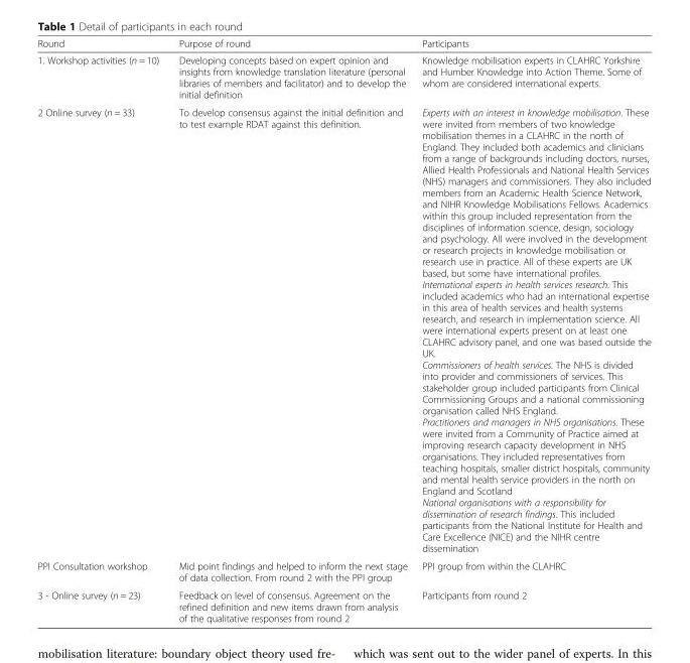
<table><thead><tr><td>Round</td><td>Purpose of round</td><td>Participants</td></tr></thead><tbody><tr><td>1. Workshop activities (n = 10)</td><td>Developing concepts based on expert opinion and insights from knowledge translation literature (personal libraries of members and facilitator) and to develop the initial definition</td><td>Knowledge mobilisation experts in CLAHRC Yorkshire and Humber Knowledge into Action Theme. Some of whom are considered international experts.</td></tr><tr><td>2 Online survey (n = 33)</td><td>To develop consensus against the initial definition and to test example RDAT against this definition.</td><td>Experts with an interest in knowledge mobilisation. These were invited from members of two knowledge mobilisation themes in a CLAHRC in the north of England. They included both academics and clinicians from a range of backgrounds including doctors, nurses, Allied Health Professionals and National Health Services (NHS) managers and commissioners. They also included members from an Academic Health Science Network, and NIHR Knowledge Mobilisations Fellows. Academics within this group included representation from the disciplines of information science, design, sociology and psychology. All were involved in the development or research projects in knowledge mobilisation or research use in practice. All of these experts are UK based, but some have international profiles. International experts in health services research. This included academics who had an international expertise in this area of health services and health systems research, and research in implementation science. All were international experts present on at least one CLAHRC advisory panel, and one was based outside the UK. Commissioners of health services. The NHS is divided into provider and commissioners of services. This stakeholder group included participants from Clinical Commissioning Groups and a national commissioning organisation called NHS England. Practitioners and managers in NHS organisations. These were invited from a Community of Practice aimed at improving research capacity development in NHS organisations. They included representatives from teaching hospitals, smaller district hospitals, community and mental health service providers in the north on England and Scotland National organisations with a responsibility for dissemination of research findings. This included participants from the National Institute for Health and Care Excellence (NICE) and the NIHR centre dissemination</td></tr><tr><td>PPI Consultation workshop</td><td>Mid point findings and helped to inform the next stage of data collection. From round 2 with the PPI group</td><td>PPI group from within the CLAHRC</td></tr><tr><td>3 - Online survey (n = 23)</td><td>Feedback on level of consensus. Agreement on the refined definition and new items drawn from analysis of the qualitative responses from round 2</td><td>Participants from round 2</td></tr></tbody></table>